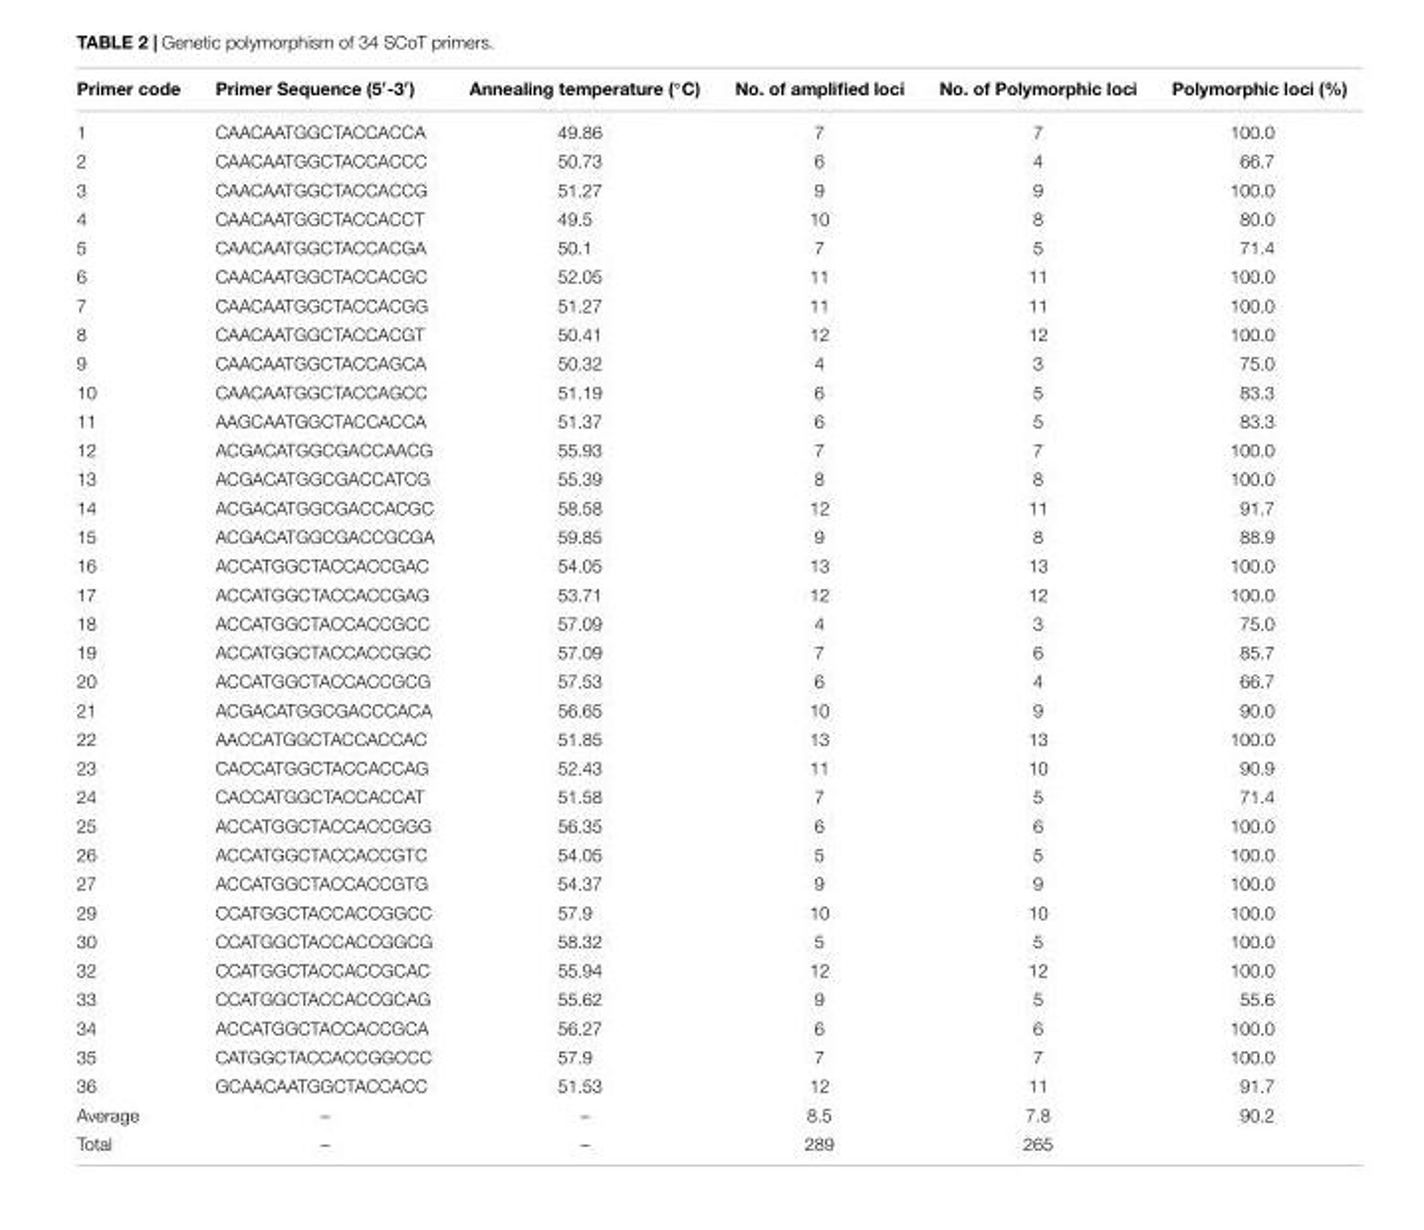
<table><thead><tr><td>Primer code</td><td>Primer Sequence (5′-3′)</td><td>Annealing temperature (◦C)</td><td>No. of amplified loci</td><td>No. of Polymorphic loci</td><td>Polymorphic loci (%)</td></tr></thead><tbody><tr><td>1</td><td>CAACAATGGCTACCACCA</td><td>49.86</td><td>7</td><td>7</td><td>100.0</td></tr><tr><td>2</td><td>CAACAATGGCTACCACCC</td><td>50.73</td><td>6</td><td>4</td><td>66.7</td></tr><tr><td>3</td><td>CAACAATGGCTACCACCG</td><td>51.27</td><td>9</td><td>9</td><td>100.0</td></tr><tr><td>4</td><td>CAACAATGGCTACCACCT</td><td>49.5</td><td>10</td><td>8</td><td>80.0</td></tr><tr><td>5</td><td>CAACAATGGCTACCACGA</td><td>50.1</td><td>7</td><td>5</td><td>71.4</td></tr><tr><td>6</td><td>CAACAATGGCTACCACGC</td><td>52.05</td><td>11</td><td>11</td><td>100.0</td></tr><tr><td>7</td><td>CAACAATGGCTACCACGG</td><td>51.27</td><td>11</td><td>11</td><td>100.0</td></tr><tr><td>8</td><td>CAACAATGGCTACCACGT</td><td>50.41</td><td>12</td><td>12</td><td>100.0</td></tr><tr><td>9</td><td>CAACAATGGCTACCAGCA</td><td>50.32</td><td>4</td><td>3</td><td>75.0</td></tr><tr><td>10</td><td>CAACAATGGCTACCAGCC</td><td>51.19</td><td>6</td><td>5</td><td>83.3</td></tr><tr><td>11</td><td>AAGCAATGGCTACCACCA</td><td>51.37</td><td>6</td><td>5</td><td>83.3</td></tr><tr><td>12</td><td>ACGACATGGCGACCAACG</td><td>55.93</td><td>7</td><td>7</td><td>100.0</td></tr><tr><td>13</td><td>ACGACATGGCGACCATCG</td><td>55.39</td><td>8</td><td>8</td><td>100.0</td></tr><tr><td>14</td><td>ACGACATGGCGACCACGC</td><td>58.58</td><td>12</td><td>11</td><td>91.7</td></tr><tr><td>15</td><td>ACGACATGGCGACCGCGA</td><td>59.85</td><td>9</td><td>8</td><td>88.9</td></tr><tr><td>16</td><td>ACCATGGCTACCACCGAC</td><td>54.05</td><td>13</td><td>13</td><td>100.0</td></tr><tr><td>17</td><td>ACCATGGCTACCACCGAG</td><td>53.71</td><td>12</td><td>12</td><td>100.0</td></tr><tr><td>18</td><td>ACCATGGCTACCACCGCC</td><td>57.09</td><td>4</td><td>3</td><td>75.0</td></tr><tr><td>19</td><td>ACCATGGCTACCACCGGC</td><td>57.09</td><td>7</td><td>6</td><td>85.7</td></tr><tr><td>20</td><td>ACCATGGCTACCACCGCG</td><td>57.53</td><td>6</td><td>4</td><td>66.7</td></tr><tr><td>21</td><td>ACGACATGGCGACCCACA</td><td>56.65</td><td>10</td><td>9</td><td>90.0</td></tr><tr><td>22</td><td>AACCATGGCTACCACCAC</td><td>51.85</td><td>13</td><td>13</td><td>100.0</td></tr><tr><td>23</td><td>CACCATGGCTACCACCAG</td><td>52.43</td><td>11</td><td>10</td><td>90.9</td></tr><tr><td>24</td><td>CACCATGGCTACCACCAT</td><td>51.58</td><td>7</td><td>5</td><td>71.4</td></tr><tr><td>25</td><td>ACCATGGCTACCACCGGG</td><td>56.35</td><td>6</td><td>6</td><td>100.0</td></tr><tr><td>26</td><td>ACCATGGCTACCACCGTC</td><td>54.05</td><td>5</td><td>5</td><td>100.0</td></tr><tr><td>27</td><td>ACCATGGCTACCACCGTG</td><td>54.37</td><td>9</td><td>9</td><td>100.0</td></tr><tr><td>29</td><td>CCATGGCTACCACCGGCC</td><td>57.9</td><td>10</td><td>10</td><td>100.0</td></tr><tr><td>30</td><td>CCATGGCTACCACCGGCG</td><td>58.32</td><td>5</td><td>5</td><td>100.0</td></tr><tr><td>32</td><td>CCATGGCTACCACCGCAC</td><td>55.94</td><td>12</td><td>12</td><td>100.0</td></tr><tr><td>33</td><td>CCATGGCTACCACCGCAG</td><td>55.62</td><td>9</td><td>5</td><td>55.6</td></tr><tr><td>34</td><td>ACCATGGCTACCACCGCA</td><td>56.27</td><td>6</td><td>6</td><td>100.0</td></tr><tr><td>35</td><td>CATGGCTACCACCGGCCC</td><td>57.9</td><td>7</td><td>7</td><td>100.0</td></tr><tr><td>36</td><td>GCAACAATGGCTACCACC</td><td>51.53</td><td>12</td><td>11</td><td>91.7</td></tr><tr><td>Average</td><td>–</td><td>–</td><td>8.5</td><td>7.8</td><td>90.2</td></tr><tr><td>Total</td><td>–</td><td>–</td><td>289</td><td>265</td><td></td></tr></tbody></table>